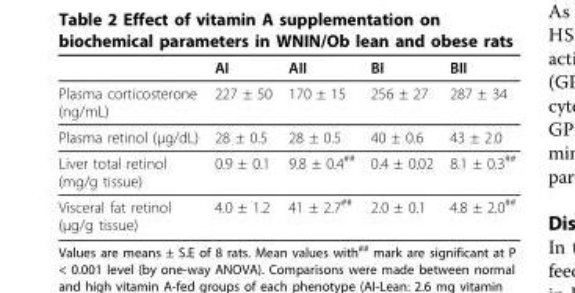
<table><thead><tr><td></td><td>AI</td><td>AII</td><td>BI</td><td>BII</td></tr></thead><tbody><tr><td>Plasma corticosterone (ng/mL)</td><td>227 ± 50</td><td>170 ± 15</td><td>256 ± 27</td><td>287 ± 34</td></tr><tr><td>Plasma retinol (μg/dL)</td><td>28 ± 0.5</td><td>28 ± 0.5</td><td>40 ± 0.6</td><td>43 ± 2.0</td></tr><tr><td>Liver total retinol (mg/g tissue)</td><td>0.9 ± 0.1</td><td>9.8 ± 0.4<sup>##</sup></td><td>0.4 ± 0.02</td><td>8.1 ± 0.3<sup>##</sup></td></tr><tr><td>Visceral fat retinol (μg/g tissue)</td><td>4.0 ± 1.2</td><td>41 ± 2.7<sup>##</sup></td><td>2.0 ± 0.1</td><td>4.8 ± 2.0<sup>##</sup></td></tr></tbody></table>